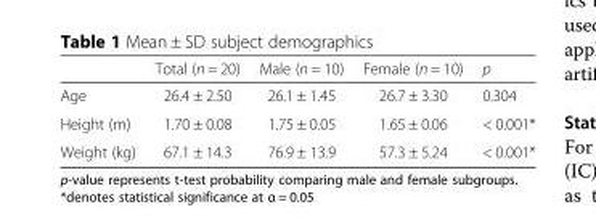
<table><thead><tr><td></td><td>Total (n = 20)</td><td>Male (n = 10)</td><td>Female (n = 10)</td><td>p</td></tr></thead><tbody><tr><td>Age</td><td>26.4 ± 2.50</td><td>26.1 ± 1.45</td><td>26.7 ± 3.30</td><td>0.304</td></tr><tr><td>Height (m)</td><td>1.70 ± 0.08</td><td>1.75 ± 0.05</td><td>1.65 ± 0.06</td><td>&lt; 0.001*</td></tr><tr><td>Weight (kg)</td><td>67.1 ± 14.3</td><td>76.9 ± 13.9</td><td>57.3 ± 5.24</td><td>&lt; 0.001*</td></tr></tbody></table>